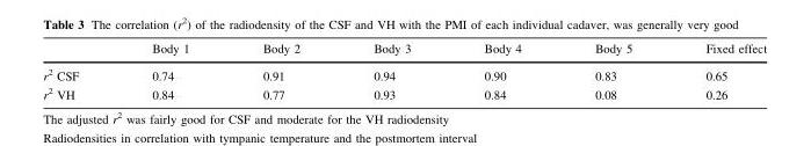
<table><thead><tr><td></td><td>Body 1</td><td>Body 2</td><td>Body 3</td><td>Body 4</td><td>Body 5</td><td>Fixed effect</td></tr></thead><tbody><tr><td>r<sup>2</sup> CSF</td><td>0.74</td><td>0.91</td><td>0.94</td><td>0.90</td><td>0.83</td><td>0.65</td></tr><tr><td>r<sup>2</sup> VH</td><td>0.84</td><td>0.77</td><td>0.93</td><td>0.84</td><td>0.08</td><td>0.26</td></tr></tbody></table>